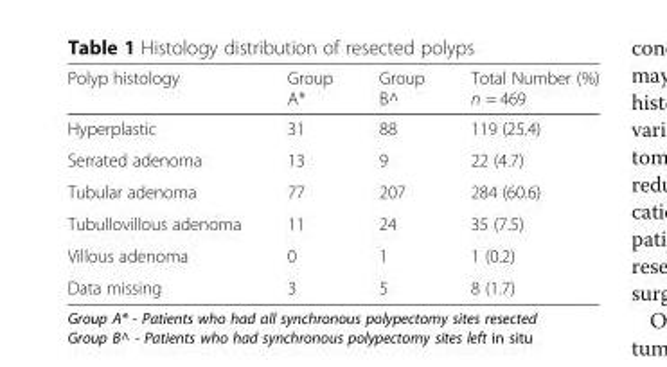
<table><thead><tr><td>Polyp histology</td><td>Group A*</td><td>Group B^</td><td>Total Number (%) n = 469</td></tr></thead><tbody><tr><td>Hyperplastic</td><td>31</td><td>88</td><td>119 (25.4)</td></tr><tr><td>Serrated adenoma</td><td>13</td><td>9</td><td>22 (4.7)</td></tr><tr><td>Tubular adenoma</td><td>77</td><td>207</td><td>284 (60.6)</td></tr><tr><td>Tubullovillous adenoma</td><td>11</td><td>24</td><td>35 (7.5)</td></tr><tr><td>Villous adenoma</td><td>0</td><td>1</td><td>1 (0.2)</td></tr><tr><td>Data missing</td><td>3</td><td>5</td><td>8 (1.7)</td></tr></tbody></table>